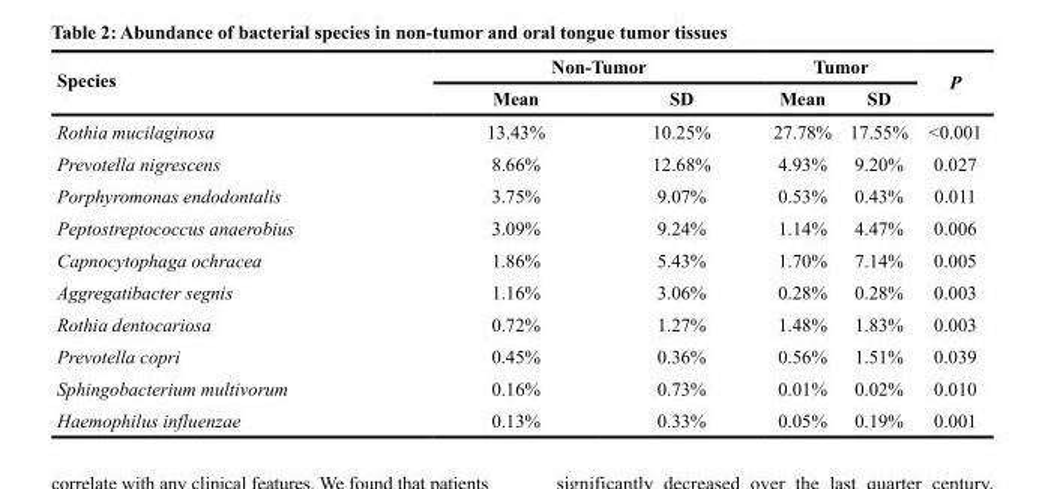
<table><thead><tr><td rowspan="2">Species</td><td colspan="2">Non-Tumor</td><td colspan="2">Tumor</td><td rowspan="2"><sub>P</sub></td></tr><tr><td>Mean</td><td>SD</td><td>Mean</td><td>SD</td></tr></thead><tbody><tr><td>Rothia mucilaginosa</td><td>13.43%</td><td>10.25%</td><td>27.78%</td><td>17.55%</td><td>&lt;0.001</td></tr><tr><td>Prevotella nigrescens</td><td>8.66%</td><td>12.68%</td><td>4.93%</td><td>9.20%</td><td>0.027</td></tr><tr><td>Porphyromonas endodontalis</td><td>3.75%</td><td>9.07%</td><td>0.53%</td><td>0.43%</td><td>0.011</td></tr><tr><td>Peptostreptococcus anaerobius</td><td>3.09%</td><td>9.24%</td><td>1.14%</td><td>4.47%</td><td>0.006</td></tr><tr><td>Capnocytophaga ochracea</td><td>1.86%</td><td>5.43%</td><td>1.70%</td><td>7.14%</td><td>0.005</td></tr><tr><td>Aggregatibacter segnis</td><td>1.16%</td><td>3.06%</td><td>0.28%</td><td>0.28%</td><td>0.003</td></tr><tr><td>Rothia dentocariosa</td><td>0.72%</td><td>1.27%</td><td>1.48%</td><td>1.83%</td><td>0.003</td></tr><tr><td>Prevotella copri</td><td>0.45%</td><td>0.36%</td><td>0.56%</td><td>1.51%</td><td>0.039</td></tr><tr><td>Sphingobacterium multivorum</td><td>0.16%</td><td>0.73%</td><td>0.01%</td><td>0.02%</td><td>0.010</td></tr><tr><td>Haemophilus influenzae</td><td>0.13%</td><td>0.33%</td><td>0.05%</td><td>0.19%</td><td>0.001</td></tr></tbody></table>